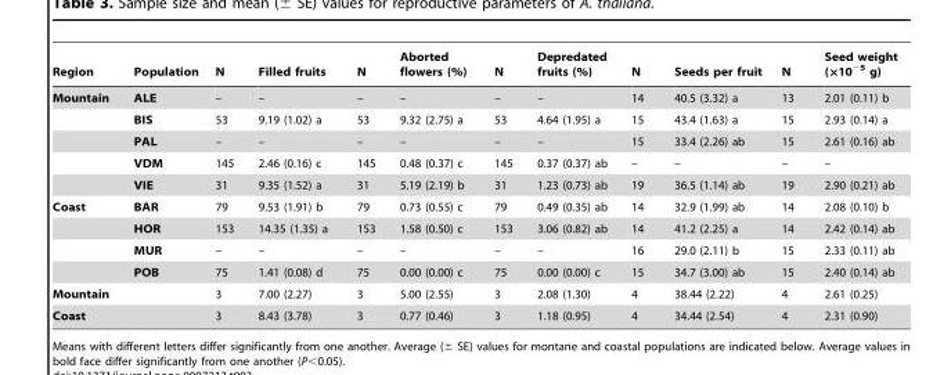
<table><thead><tr><td>Region</td><td>Population</td><td>N</td><td>Filled fruits</td><td>N</td><td>Aborted flowers (%)</td><td>N</td><td>Depredated fruits (%)</td><td>N</td><td>Seeds per fruit</td><td>N</td><td>Seed weight (×10<sup>−5</sup> g)</td></tr></thead><tbody><tr><td rowspan="5">Mountain</td><td>ALE</td><td>–</td><td>–</td><td>–</td><td>–</td><td>–</td><td>–</td><td>14</td><td>40.5 (3.32) a</td><td>13</td><td>2.01 (0.11) b</td></tr><tr><td>BIS</td><td>53</td><td>9.19 (1.02) a</td><td>53</td><td>9.32 (2.75) a</td><td>53</td><td>4.64 (1.95) a</td><td>15</td><td>43.4 (1.63) a</td><td>15</td><td>2.93 (0.14) a</td></tr><tr><td>PAL</td><td>–</td><td>–</td><td>–</td><td>–</td><td>–</td><td>–</td><td>15</td><td>33.4 (2.26) ab</td><td>15</td><td>2.61 (0.16) ab</td></tr><tr><td>VDM</td><td>145</td><td>2.46 (0.16) c</td><td>145</td><td>0.48 (0.37) c</td><td>145</td><td>0.37 (0.37) ab</td><td>–</td><td>–</td><td>–</td><td>–</td></tr><tr><td>VIE</td><td>31</td><td>9.35 (1.52) a</td><td>31</td><td>5.19 (2.19) b</td><td>31</td><td>1.23 (0.73) ab</td><td>19</td><td>36.5 (1.14) ab</td><td>19</td><td>2.90 (0.21) ab</td></tr><tr><td rowspan="4">Coast</td><td>BAR</td><td>79</td><td>9.53 (1.91) b</td><td>79</td><td>0.73 (0.55) c</td><td>79</td><td>0.49 (0.35) ab</td><td>14</td><td>32.9 (1.99) ab</td><td>14</td><td>2.08 (0.10) b</td></tr><tr><td>HOR</td><td>153</td><td>14.35 (1.35) a</td><td>153</td><td>1.58 (0.50) c</td><td>153</td><td>3.06 (0.82) ab</td><td>14</td><td>41.2 (2.25) a</td><td>14</td><td>2.42 (0.14) ab</td></tr><tr><td>MUR</td><td>–</td><td>–</td><td>–</td><td>–</td><td>–</td><td>–</td><td>16</td><td>29.0 (2.11) b</td><td>15</td><td>2.33 (0.11) ab</td></tr><tr><td>POB</td><td>75</td><td>1.41 (0.08) d</td><td>75</td><td>0.00 (0.00) c</td><td>75</td><td>0.00 (0.00) c</td><td>15</td><td>34.7 (3.00) ab</td><td>15</td><td>2.40 (0.14) ab</td></tr><tr><td>Mountain</td><td></td><td>3</td><td>7.00 (2.27)</td><td>3</td><td>5.00 (2.55)</td><td>3</td><td>2.08 (1.30)</td><td>4</td><td>38.44 (2.22)</td><td>4</td><td>2.61 (0.25)</td></tr><tr><td>Coast</td><td></td><td>3</td><td>8.43 (3.78)</td><td>3</td><td>0.77 (0.46)</td><td>3</td><td>1.18 (0.95)</td><td>4</td><td>34.44 (2.54)</td><td>4</td><td>2.31 (0.90)</td></tr></tbody></table>